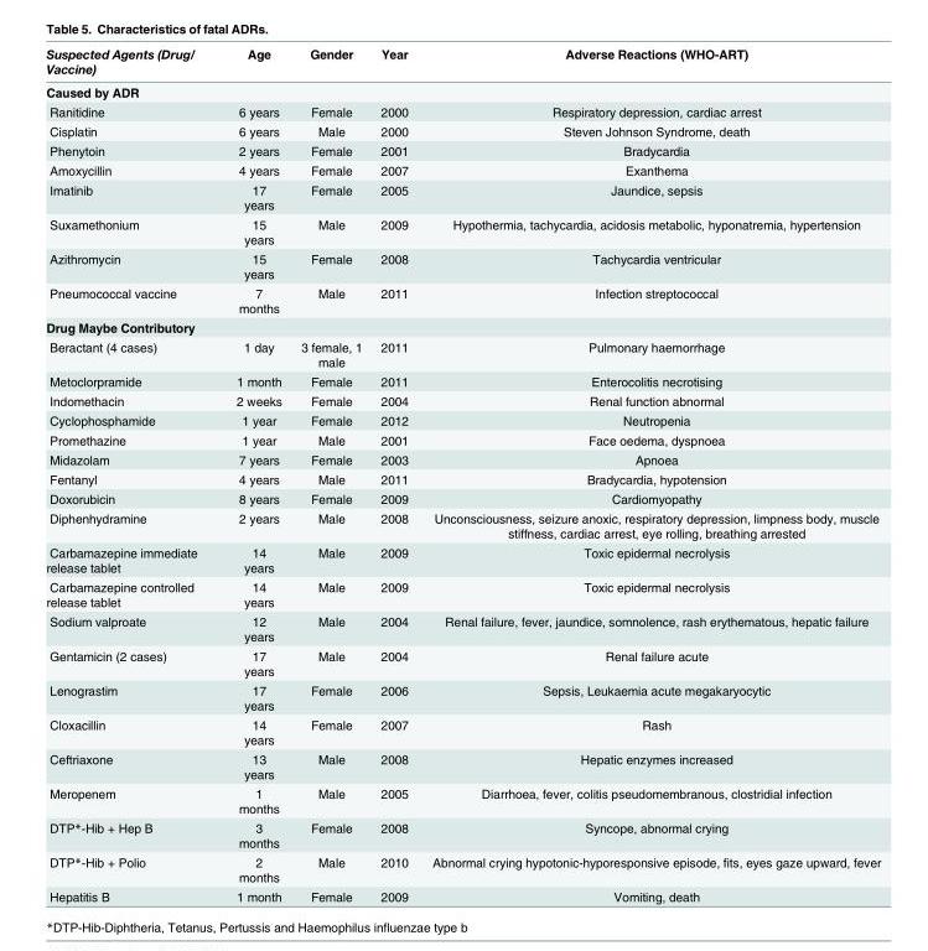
<table><thead><tr><td>Suspected Agents (Drug/ Vaccine)</td><td>Age</td><td>Gender</td><td>Year</td><td>Adverse Reactions (WHO-ART)</td></tr></thead><tbody><tr><td colspan="5">Caused by ADR</td></tr><tr><td>Ranitidine</td><td>6 years</td><td>Female</td><td>2000</td><td>Respiratory depression, cardiac arrest</td></tr><tr><td>Cisplatin</td><td>6 years</td><td>Male</td><td>2000</td><td>Steven Johnson Syndrome, death</td></tr><tr><td>Phenytoin</td><td>2 years</td><td>Female</td><td>2001</td><td>Bradycardia</td></tr><tr><td>Amoxycillin</td><td>4 years</td><td>Female</td><td>2007</td><td>Exanthema</td></tr><tr><td>Imatinib</td><td>17 years</td><td>Female</td><td>2005</td><td>Jaundice, sepsis</td></tr><tr><td>Suxamethonium</td><td>15 years</td><td>Male</td><td>2009</td><td>Hypothermia, tachycardia, acidosis metabolic, hyponatremia, hypertension</td></tr><tr><td>Azithromycin</td><td>15 years</td><td>Female</td><td>2008</td><td>Tachycardia ventricular</td></tr><tr><td>Pneumococcal vaccine</td><td>7 months</td><td>Male</td><td>2011</td><td>Infection streptococcal</td></tr><tr><td colspan="5">Drug Maybe Contributory</td></tr><tr><td>Beractant (4 cases)</td><td>1 day</td><td>3 female, 1 male</td><td>2011</td><td>Pulmonary haemorrhage</td></tr><tr><td>Metoclorpramide</td><td>1 month</td><td>Female</td><td>2011</td><td>Enterocolitis necrotising</td></tr><tr><td>Indomethacin</td><td>2 weeks</td><td>Female</td><td>2004</td><td>Renal function abnormal</td></tr><tr><td>Cyclophosphamide</td><td>1 year</td><td>Female</td><td>2012</td><td>Neutropenia</td></tr><tr><td>Promethazine</td><td>1 year</td><td>Male</td><td>2001</td><td>Face oedema, dyspnoea</td></tr><tr><td>Midazolam</td><td>7 years</td><td>Female</td><td>2003</td><td>Apnoea</td></tr><tr><td>Fentanyl</td><td>4 years</td><td>Male</td><td>2011</td><td>Bradycardia, hypotension</td></tr><tr><td>Doxorubicin</td><td>8 years</td><td>Female</td><td>2009</td><td>Cardiomyopathy</td></tr><tr><td>Diphenhydramine</td><td>2 years</td><td>Male</td><td>2008</td><td>Unconsciousness, seizure anoxic, respiratory depression, limpness body, muscle stiffness, cardiac arrest, eye rolling, breathing arrested</td></tr><tr><td>Carbamazepine immediate release tablet</td><td>14 years</td><td>Male</td><td>2009</td><td>Toxic epidermal necrolysis</td></tr><tr><td>Carbamazepine controlled release tablet</td><td>14 years</td><td>Male</td><td>2009</td><td>Toxic epidermal necrolysis</td></tr><tr><td>Sodium valproate</td><td>12 years</td><td>Male</td><td>2004</td><td>Renal failure, fever, jaundice, somnolence, rash erythematous, hepatic failure</td></tr><tr><td>Gentamicin (2 cases)</td><td>17 years</td><td>Male</td><td>2004</td><td>Renal failure acute</td></tr><tr><td>Lenograstim</td><td>17 years</td><td>Female</td><td>2006</td><td>Sepsis, Leukaemia acute megakaryocytic</td></tr><tr><td>Cloxacillin</td><td>14 years</td><td>Female</td><td>2007</td><td>Rash</td></tr><tr><td>Ceftriaxone</td><td>13 years</td><td>Male</td><td>2008</td><td>Hepatic enzymes increased</td></tr><tr><td>Meropenem</td><td>1 months</td><td>Male</td><td>2005</td><td>Diarrhoea, fever, colitis pseudomembranous, clostridial infection</td></tr><tr><td>DTP*-Hib + Hep B</td><td>3 months</td><td>Female</td><td>2008</td><td>Syncope, abnormal crying</td></tr><tr><td>DTP*-Hib + Polio</td><td>2 months</td><td>Male</td><td>2010</td><td>Abnormal crying hypotonic-hyporesponsive episode, fits, eyes gaze upward, fever</td></tr><tr><td>Hepatitis B</td><td>1 month</td><td>Female</td><td>2009</td><td>Vomiting, death</td></tr></tbody></table>